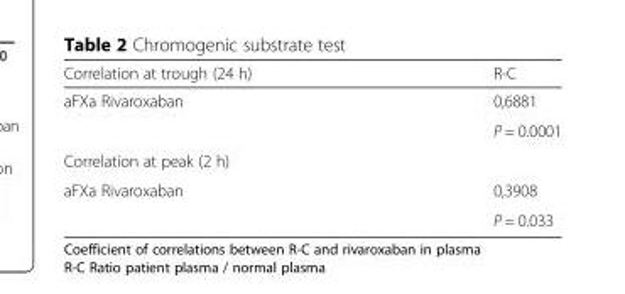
<table><thead><tr><td>Correlation at trough (24 h)</td><td>R-C</td></tr></thead><tbody><tr><td rowspan="2">aFXa Rivaroxaban</td><td>0,6881</td></tr><tr><td>P = 0.0001</td></tr><tr><td colspan="2">Correlation at peak (2 h)</td></tr><tr><td rowspan="2">aFXa Rivaroxaban</td><td>0,3908</td></tr><tr><td>P = 0.033</td></tr></tbody></table>